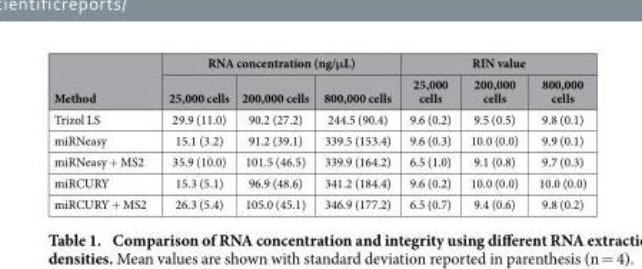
<table><thead><tr><td rowspan="2">Method</td><td colspan="3">RNA concentration (ng/μL)</td><td colspan="3">RIN value</td></tr><tr><td>25,000 cells</td><td>200,000 cells</td><td>800,000 cells</td><td>25,000 cells</td><td>200,000 cells</td><td>800,000 cells</td></tr></thead><tbody><tr><td>Trizol LS</td><td>29.9 (11.0)</td><td>90.2 (27.2)</td><td>244.5 (90.4)</td><td>9.6 (0.2)</td><td>9.5 (0.5)</td><td>9.8 (0.1)</td></tr><tr><td>miRNeasy</td><td>15.1 (3.2)</td><td>91.2 (39.1)</td><td>339.5 (153.4)</td><td>9.6 (0.3)</td><td>10.0 (0.0)</td><td>9.9 (0.1)</td></tr><tr><td>miRNeasy + MS2</td><td>35.9 (10.0)</td><td>101.5 (46.5)</td><td>339.9 (164.2)</td><td>6.5 (1.0)</td><td>9.1 (0.8)</td><td>9.7 (0.3)</td></tr><tr><td>miRCURY</td><td>15.3 (5.1)</td><td>96.9 (48.6)</td><td>341.2 (184.4)</td><td>9.6 (0.2)</td><td>10.0 (0.0)</td><td>10.0 (0.0)</td></tr><tr><td>miRCURY + MS2</td><td>26.3 (5.4)</td><td>105.0 (45.1)</td><td>346.9 (177.2)</td><td>6.5 (0.7)</td><td>9.4 (0.6)</td><td>9.8 (0.2)</td></tr></tbody></table>